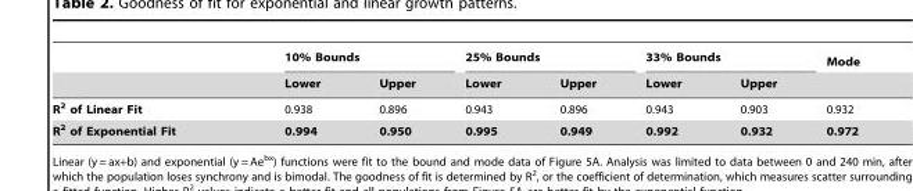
<table><thead><tr><td rowspan="2"></td><td colspan="2">10% Bounds</td><td colspan="2">25% Bounds</td><td colspan="2">33% Bounds</td><td rowspan="2">Mode</td></tr><tr><td>Lower</td><td>Upper</td><td>Lower</td><td>Upper</td><td>Lower</td><td>Upper</td></tr></thead><tbody><tr><td>R<sup>2</sup> of Linear Fit</td><td>0.938</td><td>0.896</td><td>0.943</td><td>0.896</td><td>0.943</td><td>0.903</td><td>0.932</td></tr><tr><td>R<sup>2</sup> of Exponential Fit</td><td>0.994</td><td>0.950</td><td>0.995</td><td>0.949</td><td>0.992</td><td>0.932</td><td>0.972</td></tr></tbody></table>